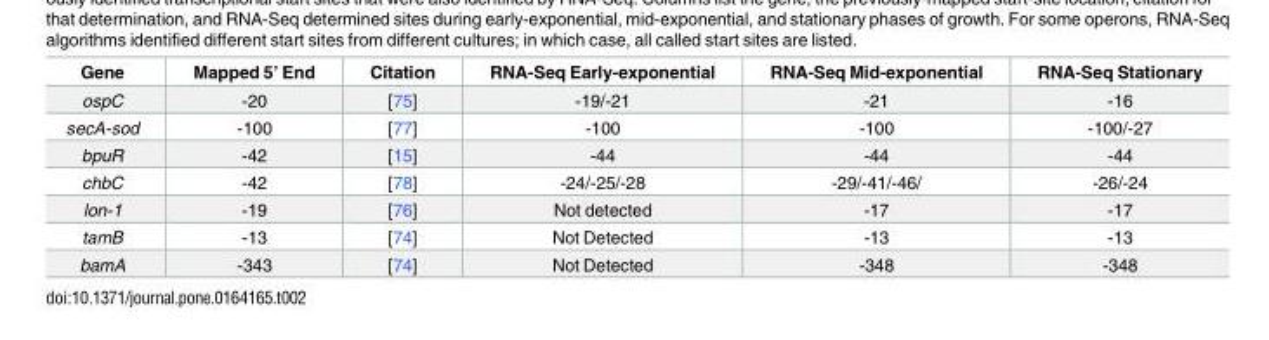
<table><thead><tr><td>Gene</td><td>Mapped 5’ End</td><td>Citation</td><td>RNA-Seq Early-exponential</td><td>RNA-Seq Mid-exponential</td><td>RNA-Seq Stationary</td></tr></thead><tbody><tr><td>ospC</td><td>-20</td><td>[75]</td><td>-19/-21</td><td>-21</td><td>-16</td></tr><tr><td>secA-sod</td><td>-100</td><td>[77]</td><td>-100</td><td>-100</td><td>-100/-27</td></tr><tr><td>bpuR</td><td>-42</td><td>[15]</td><td>-44</td><td>-44</td><td>-44</td></tr><tr><td>chbC</td><td>-42</td><td>[78]</td><td>-24/-25/-28</td><td>-29/-41/-46/</td><td>-26/-24</td></tr><tr><td>lon-1</td><td>-19</td><td>[76]</td><td>Not detected</td><td>-17</td><td>-17</td></tr><tr><td>tamB</td><td>-13</td><td>[74]</td><td>Not Detected</td><td>-13</td><td>-13</td></tr><tr><td>bamA</td><td>-343</td><td>[74]</td><td>Not Detected</td><td>-348</td><td>-348</td></tr></tbody></table>